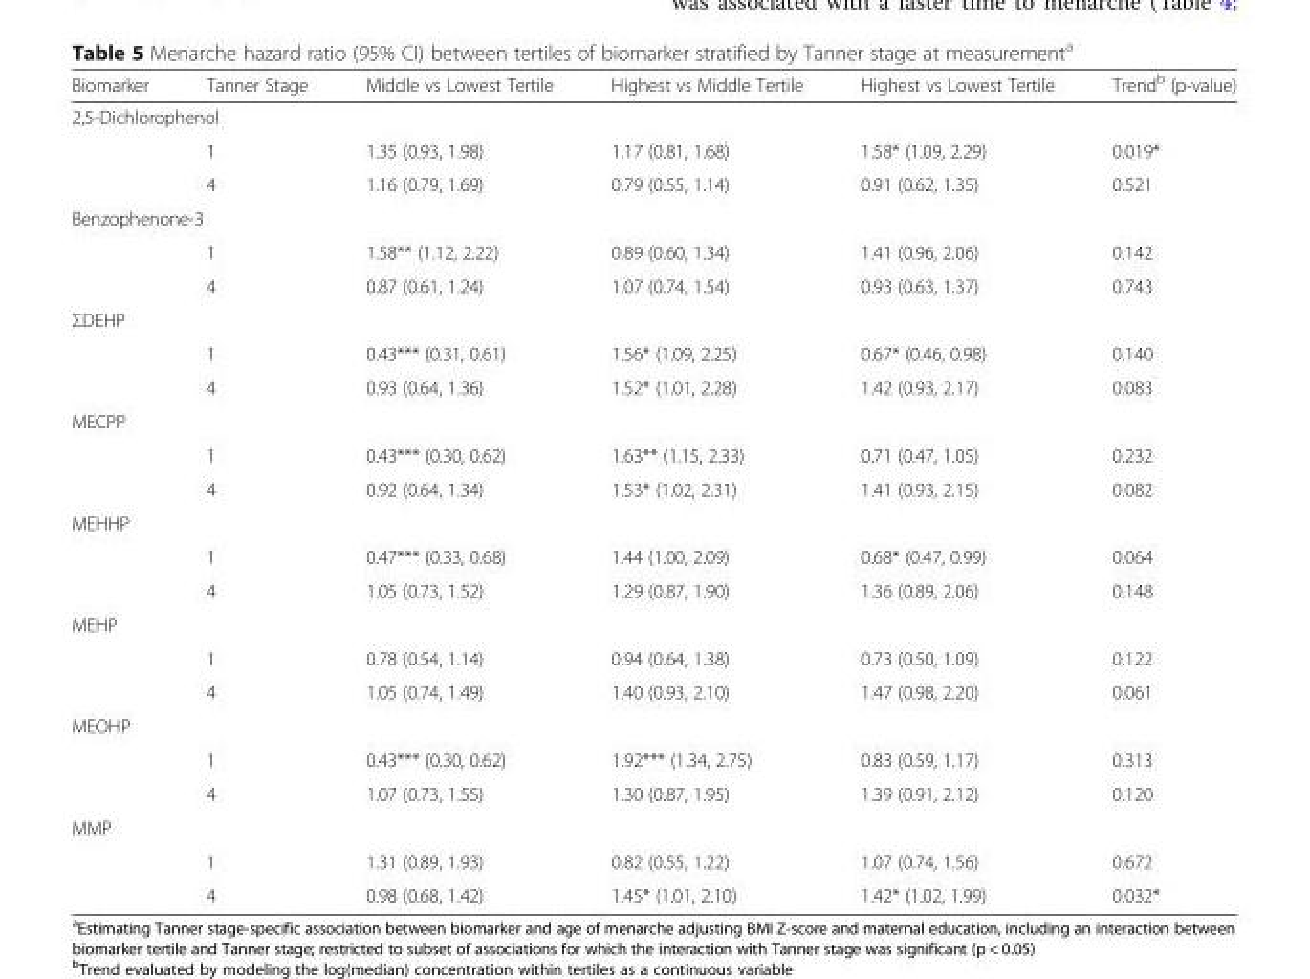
<table><thead><tr><td>Biomarker</td><td>Tanner Stage</td><td>Middle vs Lowest Tertile</td><td>Highest vs Middle Tertile</td><td>Highest vs Lowest Tertile</td><td>Trend<sup>b</sup> (p-value)</td></tr></thead><tbody><tr><td colspan="6">2,5-Dichlorophenol</td></tr><tr><td rowspan="2"></td><td>1</td><td>1.35 (0.93, 1.98)</td><td>1.17 (0.81, 1.68)</td><td>1.58* (1.09, 2.29)</td><td>0.019*</td></tr><tr><td>4</td><td>1.16 (0.79, 1.69)</td><td>0.79 (0.55, 1.14)</td><td>0.91 (0.62, 1.35)</td><td>0.521</td></tr><tr><td colspan="6">Benzophenone-3</td></tr><tr><td rowspan="2"></td><td>1</td><td>1.58** (1.12, 2.22)</td><td>0.89 (0.60, 1.34)</td><td>1.41 (0.96, 2.06)</td><td>0.142</td></tr><tr><td>4</td><td>0.87 (0.61, 1.24)</td><td>1.07 (0.74, 1.54)</td><td>0.93 (0.63, 1.37)</td><td>0.743</td></tr><tr><td colspan="6">ΣDEHP</td></tr><tr><td rowspan="2"></td><td>1</td><td>0.43*** (0.31, 0.61)</td><td>1.56* (1.09, 2.25)</td><td>0.67* (0.46, 0.98)</td><td>0.140</td></tr><tr><td>4</td><td>0.93 (0.64, 1.36)</td><td>1.52* (1.01, 2.28)</td><td>1.42 (0.93, 2.17)</td><td>0.083</td></tr><tr><td colspan="6">MECPP</td></tr><tr><td rowspan="2"></td><td>1</td><td>0.43*** (0.30, 0.62)</td><td>1.63** (1.15, 2.33)</td><td>0.71 (0.47, 1.05)</td><td>0.232</td></tr><tr><td>4</td><td>0.92 (0.64, 1.34)</td><td>1.53* (1.02, 2.31)</td><td>1.41 (0.93, 2.15)</td><td>0.082</td></tr><tr><td colspan="6">MEHHP</td></tr><tr><td rowspan="2"></td><td>1</td><td>0.47*** (0.33, 0.68)</td><td>1.44 (1.00, 2.09)</td><td>0.68* (0.47, 0.99)</td><td>0.064</td></tr><tr><td>4</td><td>1.05 (0.73, 1.52)</td><td>1.29 (0.87, 1.90)</td><td>1.36 (0.89, 2.06)</td><td>0.148</td></tr><tr><td colspan="6">MEHP</td></tr><tr><td rowspan="2"></td><td>1</td><td>0.78 (0.54, 1.14)</td><td>0.94 (0.64, 1.38)</td><td>0.73 (0.50, 1.09)</td><td>0.122</td></tr><tr><td>4</td><td>1.05 (0.74, 1.49)</td><td>1.40 (0.93, 2.10)</td><td>1.47 (0.98, 2.20)</td><td>0.061</td></tr><tr><td colspan="6">MEOHP</td></tr><tr><td rowspan="2"></td><td>1</td><td>0.43*** (0.30, 0.62)</td><td>1.92*** (1.34, 2.75)</td><td>0.83 (0.59, 1.17)</td><td>0.313</td></tr><tr><td>4</td><td>1.07 (0.73, 1.55)</td><td>1.30 (0.87, 1.95)</td><td>1.39 (0.91, 2.12)</td><td>0.120</td></tr><tr><td colspan="6">MMP</td></tr><tr><td rowspan="2"></td><td>1</td><td>1.31 (0.89, 1.93)</td><td>0.82 (0.55, 1.22)</td><td>1.07 (0.74, 1.56)</td><td>0.672</td></tr><tr><td>4</td><td>0.98 (0.68, 1.42)</td><td>1.45* (1.01, 2.10)</td><td>1.42* (1.02, 1.99)</td><td>0.032*</td></tr></tbody></table>